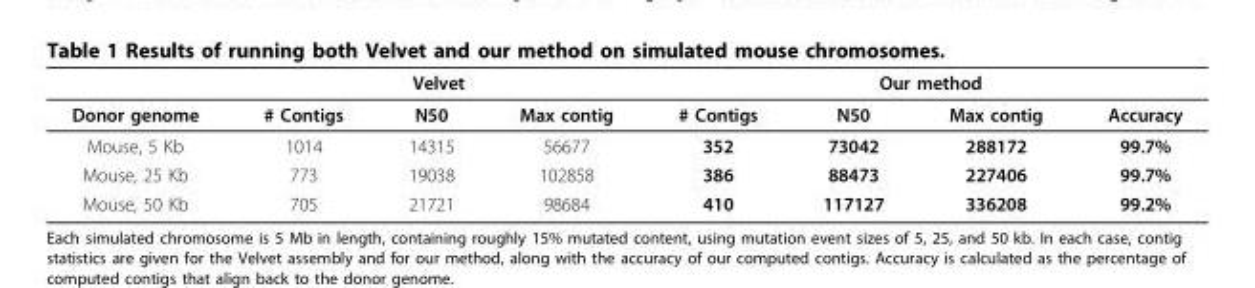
<table><thead><tr><td rowspan="2">Donor genome</td><td colspan="3">Velvet</td><td colspan="4">Our method</td></tr><tr><td># Contigs</td><td>N50</td><td>Max contig</td><td># Contigs</td><td>N50</td><td>Max contig</td><td>Accuracy</td></tr></thead><tbody><tr><td>Mouse, 5 Kb</td><td>1014</td><td>14315</td><td>56677</td><td>352</td><td>73042</td><td>288172</td><td>99.7%</td></tr><tr><td>Mouse, 25 Kb</td><td>773</td><td>19038</td><td>102858</td><td>386</td><td>88473</td><td>227406</td><td>99.7%</td></tr><tr><td>Mouse, 50 Kb</td><td>705</td><td>21721</td><td>98684</td><td>410</td><td>117127</td><td>336208</td><td>99.2%</td></tr></tbody></table>